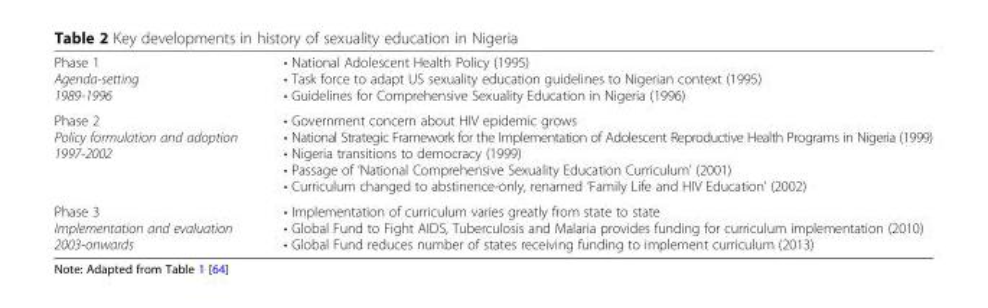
<table><tbody><tr><td>Phase 1 Agenda-setting 1989-1996</td><td>• National Adolescent Health Policy (1995) • Task force to adapt US sexuality education guidelines to Nigerian context (1995) • Guidelines for Comprehensive Sexuality Education in Nigeria (1996)</td></tr><tr><td>Phase 2 Policy formulation and adoption 1997-2002</td><td>• Government concern about HIV epidemic grows • National Strategic Framework for the Implementation of Adolescent Reproductive Health Programs in Nigeria (1999) • Nigeria transitions to democracy (1999) • Passage of ‘National Comprehensive Sexuality Education Curriculum’ (2001) • Curriculum changed to abstinence-only, renamed ‘Family Life and HIV Education’ (2002)</td></tr><tr><td>Phase 3 Implementation and evaluation 2003-onwards</td><td>• Implementation of curriculum varies greatly from state to state • Global Fund to Fight AIDS, Tuberculosis and Malaria provides funding for curriculum implementation (2010) • Global Fund reduces number of states receiving funding to implement curriculum (2013)</td></tr></tbody></table>